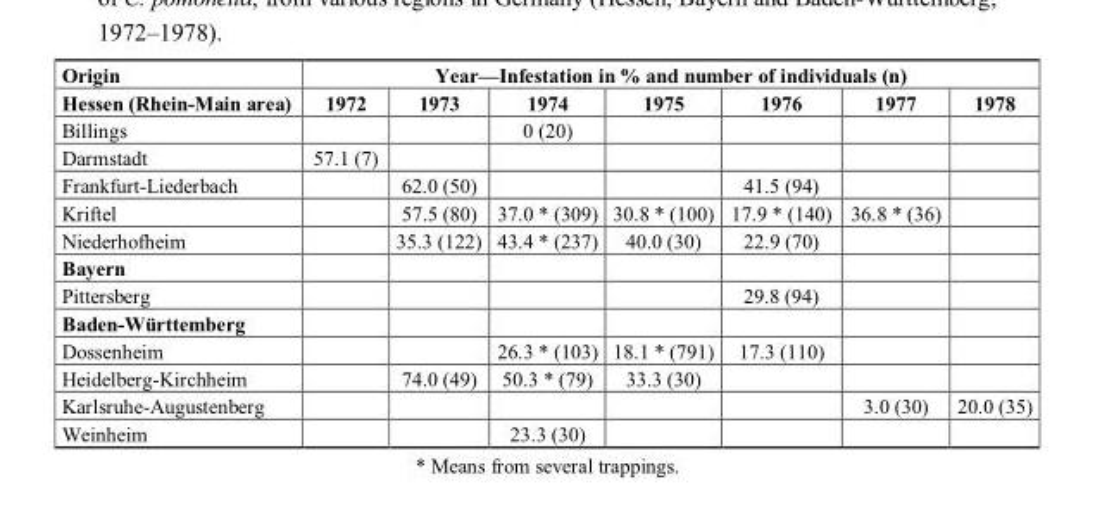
<table><thead><tr><td rowspan="2">Origin Hessen (Rhein-Main area)</td><td colspan="7">Year—Infestation in % and number of individuals (n)</td></tr><tr><td>1972</td><td>1973</td><td>1974</td><td>1975</td><td>1976</td><td>1977</td><td>1978</td></tr></thead><tbody><tr><td>Billings</td><td></td><td></td><td>0 (20)</td><td></td><td></td><td></td><td></td></tr><tr><td>Darmstadt</td><td>57.1 (7)</td><td></td><td></td><td></td><td></td><td></td><td></td></tr><tr><td>Frankfurt-Liederbach</td><td></td><td>62.0 (50)</td><td></td><td></td><td>41.5 (94)</td><td></td><td></td></tr><tr><td>Kriftel</td><td></td><td>57.5 (80)</td><td>37.0 * (309)</td><td>30.8 * (100)</td><td>17.9 * (140)</td><td>36.8 * (36)</td><td></td></tr><tr><td>Niederhofheim</td><td></td><td>35.3 (122)</td><td>43.4 * (237)</td><td>40.0 (30)</td><td>22.9 (70)</td><td></td><td></td></tr><tr><td colspan="8">Bayern</td></tr><tr><td>Pittersberg</td><td></td><td></td><td></td><td></td><td>29.8 (94)</td><td></td><td></td></tr><tr><td colspan="8">Baden-Württemberg</td></tr><tr><td>Dossenheim</td><td></td><td></td><td>26.3 * (103)</td><td>18.1 * (791)</td><td>17.3 (110)</td><td></td><td></td></tr><tr><td>Heidelberg-Kirchheim</td><td></td><td>74.0 (49)</td><td>50.3 * (79)</td><td>33.3 (30)</td><td></td><td></td><td></td></tr><tr><td>Karlsruhe-Augustenberg</td><td></td><td></td><td></td><td></td><td></td><td>3.0 (30)</td><td>20.0 (35)</td></tr><tr><td>Weinheim</td><td></td><td></td><td>23.3 (30)</td><td></td><td></td><td></td><td></td></tr></tbody></table>